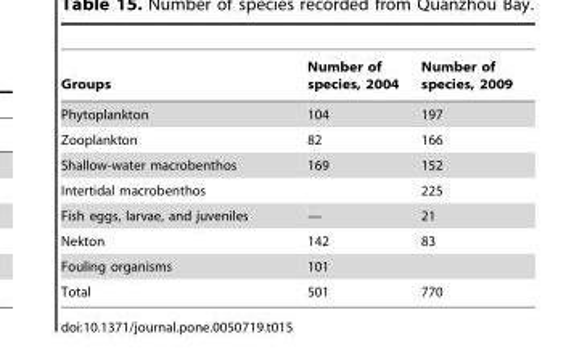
<table><thead><tr><td>Groups</td><td>Number of species, 2004</td><td>Number of species, 2009</td></tr></thead><tbody><tr><td>Phytoplankton</td><td>104</td><td>197</td></tr><tr><td>Zooplankton</td><td>82</td><td>166</td></tr><tr><td>Shallow-water macrobenthos</td><td>169</td><td>152</td></tr><tr><td>Intertidal macrobenthos</td><td></td><td>225</td></tr><tr><td>Fish eggs, larvae, and juveniles</td><td>—</td><td>21</td></tr><tr><td>Nekton</td><td>142</td><td>83</td></tr><tr><td>Fouling organisms</td><td>101</td><td></td></tr><tr><td>Total</td><td>501</td><td>770</td></tr></tbody></table>